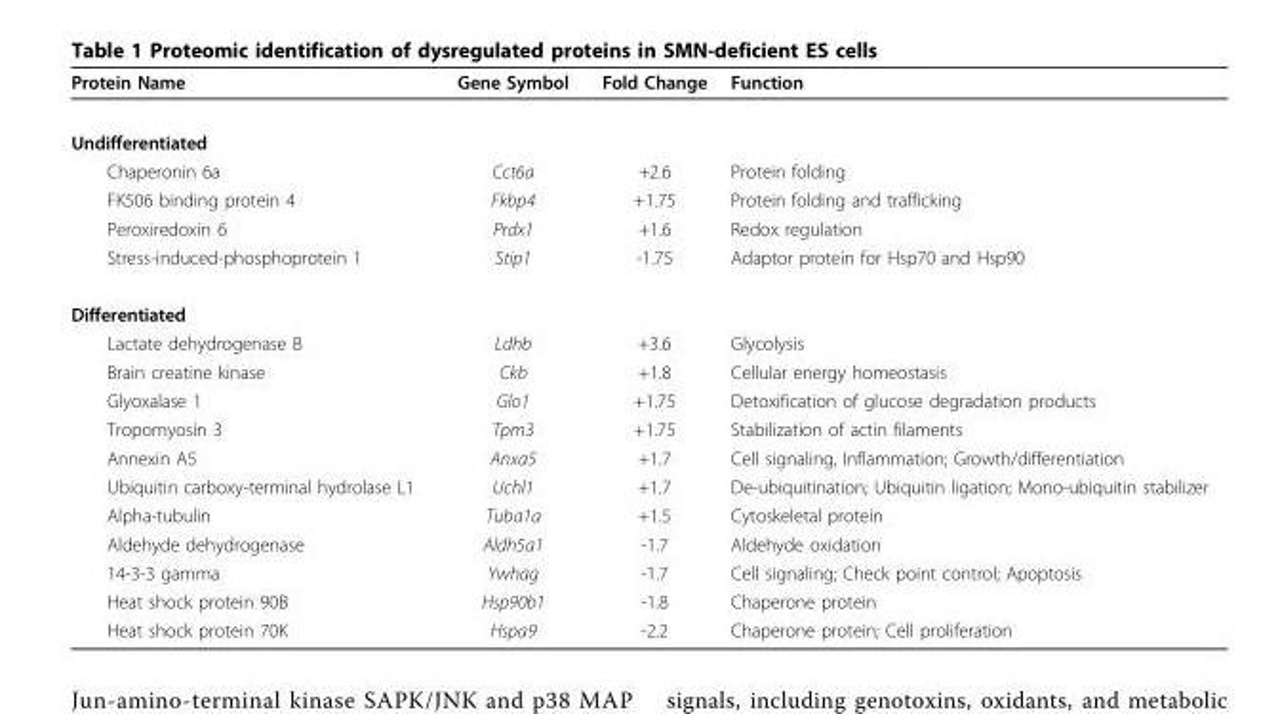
<table><thead><tr><td>Protein Name</td><td>Gene Symbol</td><td>Fold Change</td><td>Function</td></tr></thead><tbody><tr><td colspan="4">Undifferentiated</td></tr><tr><td>Chaperonin 6a</td><td>Cct6a</td><td>+2.6</td><td>Protein folding</td></tr><tr><td>FK506 binding protein 4</td><td>Fkbp4</td><td>+1.75</td><td>Protein folding and trafficking</td></tr><tr><td>Peroxiredoxin 6</td><td>Prdx1</td><td>+1.6</td><td>Redox regulation</td></tr><tr><td>Stress-induced-phosphoprotein 1</td><td>Stip1</td><td>-1.75</td><td>Adaptor protein for Hsp70 and Hsp90</td></tr><tr><td colspan="4">Differentiated</td></tr><tr><td>Lactate dehydrogenase B</td><td>Ldhb</td><td>+3.6</td><td>Glycolysis</td></tr><tr><td>Brain creatine kinase</td><td>Ckb</td><td>+1.8</td><td>Cellular energy homeostasis</td></tr><tr><td>Glyoxalase 1</td><td>Glo1</td><td>+1.75</td><td>Detoxification of glucose degradation products</td></tr><tr><td>Tropomyosin 3</td><td>Tpm3</td><td>+1.75</td><td>Stabilization of actin filaments</td></tr><tr><td>Annexin A5</td><td>Anxa5</td><td>+1.7</td><td>Cell signaling, Inflammation; Growth/differentiation</td></tr><tr><td>Ubiquitin carboxy-terminal hydrolase L1</td><td>Uchl1</td><td>+1.7</td><td>De-ubiquitination; Ubiquitin ligation; Mono-ubiquitin stabilizer</td></tr><tr><td>Alpha-tubulin</td><td>Tuba1a</td><td>+1.5</td><td>Cytoskeletal protein</td></tr><tr><td>Aldehyde dehydrogenase</td><td>Aldh5a1</td><td>-1.7</td><td>Aldehyde oxidation</td></tr><tr><td>14-3-3 gamma</td><td>Ywhag</td><td>-1.7</td><td>Cell signaling; Check point control; Apoptosis</td></tr><tr><td>Heat shock protein 90B</td><td>Hsp90b1</td><td>-1.8</td><td>Chaperone protein</td></tr><tr><td>Heat shock protein 70K</td><td>Hspa9</td><td>-2.2</td><td>Chaperone protein; Cell proliferation</td></tr></tbody></table>